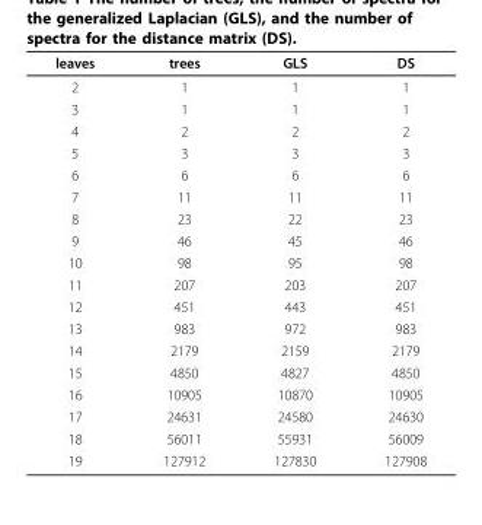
<table><thead><tr><td>leaves</td><td>trees</td><td>GLS</td><td>DS</td></tr></thead><tbody><tr><td>2</td><td>1</td><td>1</td><td>1</td></tr><tr><td>3</td><td>1</td><td>1</td><td>1</td></tr><tr><td>4</td><td>2</td><td>2</td><td>2</td></tr><tr><td>5</td><td>3</td><td>3</td><td>3</td></tr><tr><td>6</td><td>6</td><td>6</td><td>6</td></tr><tr><td>7</td><td>11</td><td>11</td><td>11</td></tr><tr><td>8</td><td>23</td><td>22</td><td>23</td></tr><tr><td>9</td><td>46</td><td>45</td><td>46</td></tr><tr><td>10</td><td>98</td><td>95</td><td>98</td></tr><tr><td>11</td><td>207</td><td>203</td><td>207</td></tr><tr><td>12</td><td>451</td><td>443</td><td>451</td></tr><tr><td>13</td><td>983</td><td>972</td><td>983</td></tr><tr><td>14</td><td>2179</td><td>2159</td><td>2179</td></tr><tr><td>15</td><td>4850</td><td>4827</td><td>4850</td></tr><tr><td>16</td><td>10905</td><td>10870</td><td>10905</td></tr><tr><td>17</td><td>24631</td><td>24580</td><td>24630</td></tr><tr><td>18</td><td>56011</td><td>55931</td><td>56009</td></tr><tr><td>19</td><td>127912</td><td>127830</td><td>127908</td></tr></tbody></table>